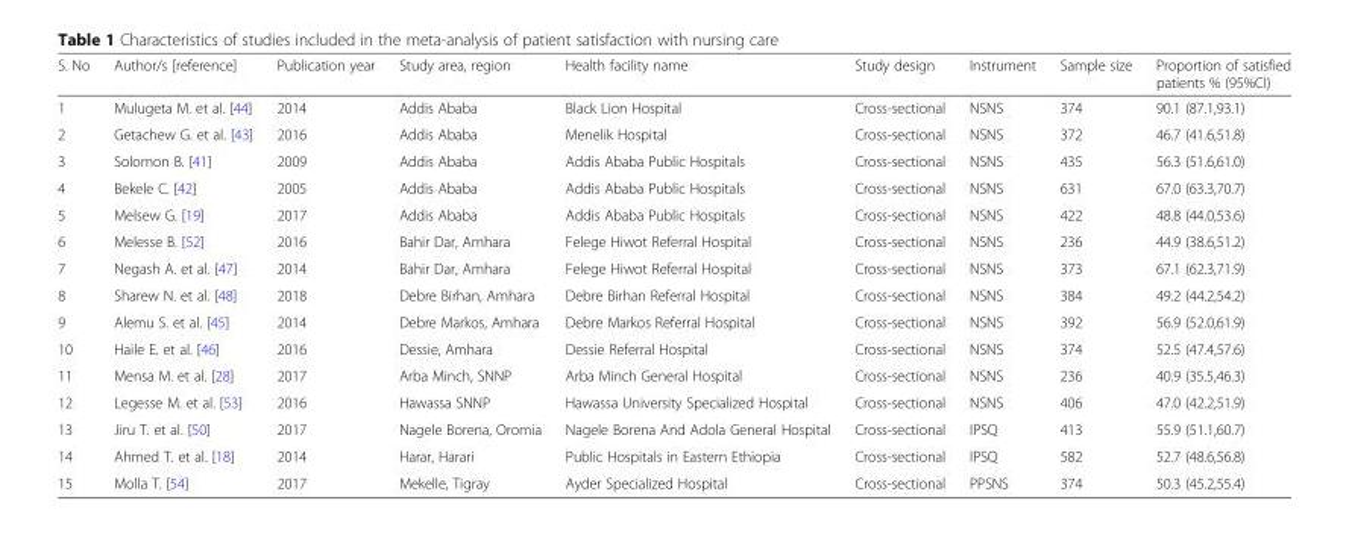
<table><thead><tr><td>S. No</td><td>Author/s [reference]</td><td>Publication year</td><td>Study area, region</td><td>Health facility name</td><td>Study design</td><td>Instrument</td><td>Sample size</td><td>Proportion of satisfied patients % (95%CI)</td></tr></thead><tbody><tr><td>1</td><td>Mulugeta M. et al. [44]</td><td>2014</td><td>Addis Ababa</td><td>Black Lion Hospital</td><td>Cross-sectional</td><td>NSNS</td><td>374</td><td>90.1 (87.1,93.1)</td></tr><tr><td>2</td><td>Getachew G. et al. [43]</td><td>2016</td><td>Addis Ababa</td><td>Menelik Hospital</td><td>Cross-sectional</td><td>NSNS</td><td>372</td><td>46.7 (41.6,51.8)</td></tr><tr><td>3</td><td>Solomon B. [41]</td><td>2009</td><td>Addis Ababa</td><td>Addis Ababa Public Hospitals</td><td>Cross-sectional</td><td>NSNS</td><td>435</td><td>56.3 (51.6,61.0)</td></tr><tr><td>4</td><td>Bekele C. [42]</td><td>2005</td><td>Addis Ababa</td><td>Addis Ababa Public Hospitals</td><td>Cross-sectional</td><td>NSNS</td><td>631</td><td>67.0 (63.3,70.7)</td></tr><tr><td>5</td><td>Melsew G. [19]</td><td>2017</td><td>Addis Ababa</td><td>Addis Ababa Public Hospitals</td><td>Cross-sectional</td><td>NSNS</td><td>422</td><td>48.8 (44.0,53.6)</td></tr><tr><td>6</td><td>Melesse B. [52]</td><td>2016</td><td>Bahir Dar, Amhara</td><td>Felege Hiwot Referral Hospital</td><td>Cross-sectional</td><td>NSNS</td><td>236</td><td>44.9 (38.6,51.2)</td></tr><tr><td>7</td><td>Negash A. et al. [47]</td><td>2014</td><td>Bahir Dar, Amhara</td><td>Felege Hiwot Referral Hospital</td><td>Cross-sectional</td><td>NSNS</td><td>373</td><td>67.1 (62.3,71.9)</td></tr><tr><td>8</td><td>Sharew N. et al. [48]</td><td>2018</td><td>Debre Birhan, Amhara</td><td>Debre Birhan Referral Hospital</td><td>Cross-sectional</td><td>NSNS</td><td>384</td><td>49.2 (44.2,54.2)</td></tr><tr><td>9</td><td>Alemu S. et al. [45]</td><td>2014</td><td>Debre Markos, Amhara</td><td>Debre Markos Referral Hospital</td><td>Cross-sectional</td><td>NSNS</td><td>392</td><td>56.9 (52.0,61.9)</td></tr><tr><td>10</td><td>Haile E. et al. [46]</td><td>2016</td><td>Dessie, Amhara</td><td>Dessie Referral Hospital</td><td>Cross-sectional</td><td>NSNS</td><td>374</td><td>52.5 (47.4,57.6)</td></tr><tr><td>11</td><td>Mensa M. et al. [28]</td><td>2017</td><td>Arba Minch, SNNP</td><td>Arba Minch General Hospital</td><td>Cross-sectional</td><td>NSNS</td><td>236</td><td>40.9 (35.5,46.3)</td></tr><tr><td>12</td><td>Legesse M. et al. [53]</td><td>2016</td><td>Hawassa SNNP</td><td>Hawassa University Specialized Hospital</td><td>Cross-sectional</td><td>NSNS</td><td>406</td><td>47.0 (42.2,51.9)</td></tr><tr><td>13</td><td>Jiru T. et al. [50]</td><td>2017</td><td>Nagele Borena, Oromia</td><td>Nagele Borena And Adola General Hospital</td><td>Cross-sectional</td><td>IPSQ</td><td>413</td><td>55.9 (51.1,60.7)</td></tr><tr><td>14</td><td>Ahmed T. et al. [18]</td><td>2014</td><td>Harar, Harari</td><td>Public Hospitals in Eastern Ethiopia</td><td>Cross-sectional</td><td>IPSQ</td><td>582</td><td>52.7 (48.6,56.8)</td></tr><tr><td>15</td><td>Molla T. [54]</td><td>2017</td><td>Mekelle, Tigray</td><td>Ayder Specialized Hospital</td><td>Cross-sectional</td><td>PPSNS</td><td>374</td><td>50.3 (45.2,55.4)</td></tr></tbody></table>